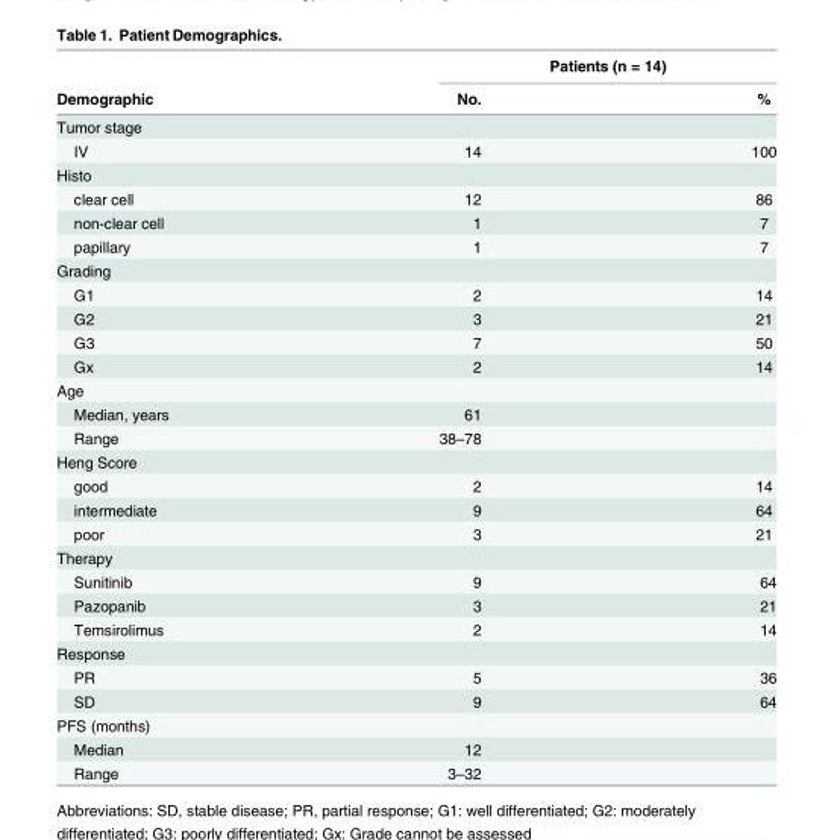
<table><thead><tr><td rowspan="2">Demographic</td><td colspan="2">Patients (n = 14)</td></tr><tr><td>No.</td><td>%</td></tr></thead><tbody><tr><td colspan="3">Tumor stage</td></tr><tr><td>IV</td><td>14</td><td>100</td></tr><tr><td colspan="3">Histo</td></tr><tr><td>clear cell</td><td>12</td><td>86</td></tr><tr><td>non-clear cell</td><td>1</td><td>7</td></tr><tr><td>papillary</td><td>1</td><td>7</td></tr><tr><td colspan="3">Grading</td></tr><tr><td>G1</td><td>2</td><td>14</td></tr><tr><td>G2</td><td>3</td><td>21</td></tr><tr><td>G3</td><td>7</td><td>50</td></tr><tr><td>Gx</td><td>2</td><td>14</td></tr><tr><td colspan="3">Age</td></tr><tr><td>Median, years</td><td>61</td><td></td></tr><tr><td>Range</td><td>38–78</td><td></td></tr><tr><td colspan="3">Heng Score</td></tr><tr><td>good</td><td>2</td><td>14</td></tr><tr><td>intermediate</td><td>9</td><td>64</td></tr><tr><td>poor</td><td>3</td><td>21</td></tr><tr><td colspan="3">Therapy</td></tr><tr><td>Sunitinib</td><td>9</td><td>64</td></tr><tr><td>Pazopanib</td><td>3</td><td>21</td></tr><tr><td>Temsirolimus</td><td>2</td><td>14</td></tr><tr><td colspan="3">Response</td></tr><tr><td>PR</td><td>5</td><td>36</td></tr><tr><td>SD</td><td>9</td><td>64</td></tr><tr><td colspan="3">PFS (months)</td></tr><tr><td>Median</td><td>12</td><td></td></tr><tr><td>Range</td><td>3–32</td><td></td></tr></tbody></table>